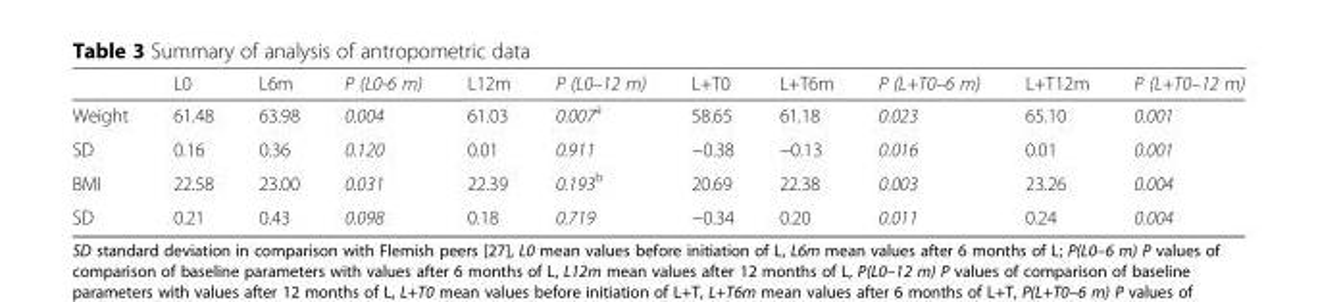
<table><thead><tr><td></td><td>L0</td><td>L6m</td><td>P (L0-6 m)</td><td>L12m</td><td>P (L0–12 m)</td><td>L+T0</td><td>L+T6m</td><td>P (L+T0–6 m)</td><td>L+T12m</td><td>P (L+T0–12 m)</td></tr></thead><tbody><tr><td>Weight</td><td>61.48</td><td>63.98</td><td>0.004</td><td>61.03</td><td>0.007<sup>a</sup></td><td>58.65</td><td>61.18</td><td>0.023</td><td>65.10</td><td>0.001</td></tr><tr><td>SD</td><td>0.16</td><td>0.36</td><td>0.120</td><td>0.01</td><td>0.911</td><td>−0.38</td><td>−0.13</td><td>0.016</td><td>0.01</td><td>0.001</td></tr><tr><td>BMI</td><td>22.58</td><td>23.00</td><td>0.031</td><td>22.39</td><td>0.193<sup>b</sup></td><td>20.69</td><td>22.38</td><td>0.003</td><td>23.26</td><td>0.004</td></tr><tr><td>SD</td><td>0.21</td><td>0.43</td><td>0.098</td><td>0.18</td><td>0.719</td><td>−0.34</td><td>0.20</td><td>0.011</td><td>0.24</td><td>0.004</td></tr></tbody></table>